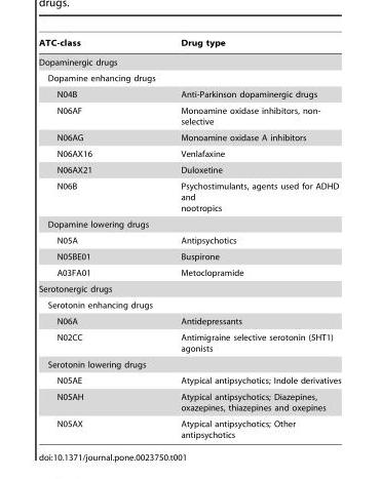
<table><thead><tr><td>ATC-class</td><td>Drug type</td></tr></thead><tbody><tr><td colspan="2">Dopaminergic drugs</td></tr><tr><td colspan="2">Dopamine enhancing drugs</td></tr><tr><td>N04B</td><td>Anti-Parkinson dopaminergic drugs</td></tr><tr><td>N06AF</td><td>Monoamine oxidase inhibitors, non- selective</td></tr><tr><td>N06AG</td><td>Monoamine oxidase A inhibitors</td></tr><tr><td>N06AX16</td><td>Venlafaxine</td></tr><tr><td>N06AX21</td><td>Duloxetine</td></tr><tr><td>N06B</td><td>Psychostimulants, agents used for ADHD and nootropics</td></tr><tr><td colspan="2">Dopamine lowering drugs</td></tr><tr><td>N05A</td><td>Antipsychotics</td></tr><tr><td>N05BE01</td><td>Buspirone</td></tr><tr><td>A03FA01</td><td>Metoclopramide</td></tr><tr><td colspan="2">Serotonergic drugs</td></tr><tr><td colspan="2">Serotonin enhancing drugs</td></tr><tr><td>N06A</td><td>Antidepressants</td></tr><tr><td>N02CC</td><td>Antimigraine selective serotonin (5HT1) agonists</td></tr><tr><td colspan="2">Serotonin lowering drugs</td></tr><tr><td>N05AE</td><td>Atypical antipsychotics; Indole derivatives</td></tr><tr><td>N05AH</td><td>Atypical antipsychotics; Diazepines, oxazepines, thiazepines and oxepines</td></tr><tr><td>N05AX</td><td>Atypical antipsychotics; Other antipsychotics</td></tr></tbody></table>